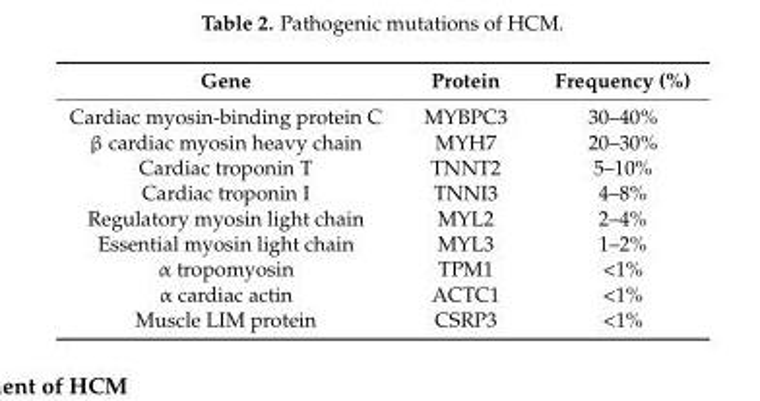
<table><thead><tr><td>Gene</td><td>Protein</td><td>Frequency (%)</td></tr></thead><tbody><tr><td>Cardiac myosin-binding protein C</td><td>MYBPC3</td><td>30–40%</td></tr><tr><td>β cardiac myosin heavy chain</td><td>MYH7</td><td>20–30%</td></tr><tr><td>Cardiac troponin T</td><td>TNNT2</td><td>5–10%</td></tr><tr><td>Cardiac troponin I</td><td>TNNI3</td><td>4–8%</td></tr><tr><td>Regulatory myosin light chain</td><td>MYL2</td><td>2–4%</td></tr><tr><td>Essential myosin light chain</td><td>MYL3</td><td>1–2%</td></tr><tr><td>α tropomyosin</td><td>TPM1</td><td>&lt;1%</td></tr><tr><td>α cardiac actin</td><td>ACTC1</td><td>&lt;1%</td></tr><tr><td>Muscle LIM protein</td><td>CSRP3</td><td>&lt;1%</td></tr></tbody></table>